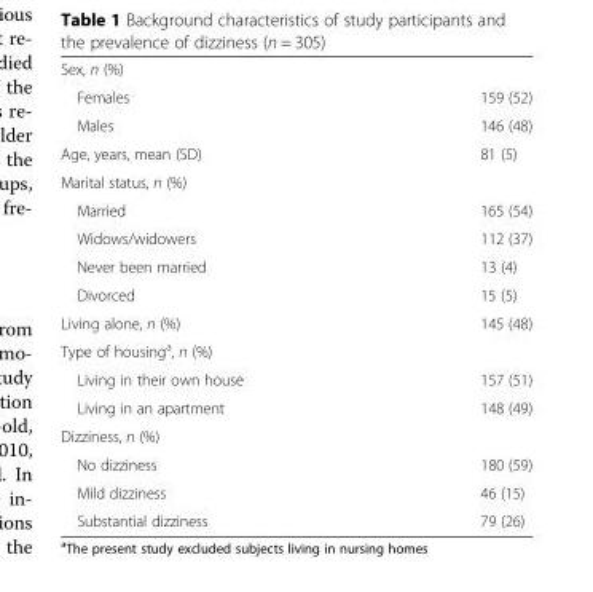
<table><tbody><tr><td colspan="2">Sex, n (%)</td></tr><tr><td>Females</td><td>159 (52)</td></tr><tr><td>Males</td><td>146 (48)</td></tr><tr><td>Age, years, mean (SD)</td><td>81 (5)</td></tr><tr><td colspan="2">Marital status, n (%)</td></tr><tr><td>Married</td><td>165 (54)</td></tr><tr><td>Widows/widowers</td><td>112 (37)</td></tr><tr><td>Never been married</td><td>13 (4)</td></tr><tr><td>Divorced</td><td>15 (5)</td></tr><tr><td>Living alone, n (%)</td><td>145 (48)</td></tr><tr><td colspan="2">Type of housing<sup>a</sup>, n (%)</td></tr><tr><td>Living in their own house</td><td>157 (51)</td></tr><tr><td>Living in an apartment</td><td>148 (49)</td></tr><tr><td colspan="2">Dizziness, n (%)</td></tr><tr><td>No dizziness</td><td>180 (59)</td></tr><tr><td>Mild dizziness</td><td>46 (15)</td></tr><tr><td>Substantial dizziness</td><td>79 (26)</td></tr></tbody></table>